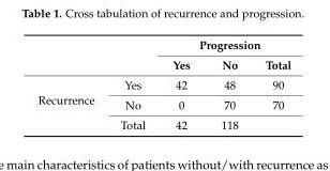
<table><thead><tr><td rowspan="2"></td><td rowspan="2"></td><td colspan="3">Progression</td></tr><tr><td>Yes</td><td>No</td><td>Total</td></tr></thead><tbody><tr><td rowspan="3">Recurrence</td><td>Yes</td><td>42</td><td>48</td><td>90</td></tr><tr><td>No</td><td>0</td><td>70</td><td>70</td></tr><tr><td>Total</td><td>42</td><td>118</td><td></td></tr></tbody></table>